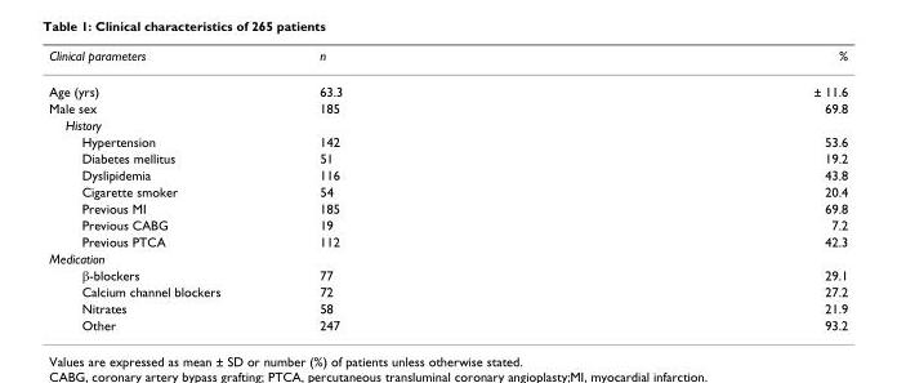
<table><thead><tr><td>Clinical parameters</td><td>n</td><td>%</td></tr></thead><tbody><tr><td>Age (yrs)</td><td>63.3</td><td>± 11.6</td></tr><tr><td>Male sex</td><td>185</td><td>69.8</td></tr><tr><td colspan="3">History</td></tr><tr><td>Hypertension</td><td>142</td><td>53.6</td></tr><tr><td>Diabetes mellitus</td><td>51</td><td>19.2</td></tr><tr><td>Dyslipidemia</td><td>116</td><td>43.8</td></tr><tr><td>Cigarette smoker</td><td>54</td><td>20.4</td></tr><tr><td>Previous MI</td><td>185</td><td>69.8</td></tr><tr><td>Previous CABG</td><td>19</td><td>7.2</td></tr><tr><td>Previous PTCA</td><td>112</td><td>42.3</td></tr><tr><td colspan="3">Medication</td></tr><tr><td>β-blockers</td><td>77</td><td>29.1</td></tr><tr><td>Calcium channel blockers</td><td>72</td><td>27.2</td></tr><tr><td>Nitrates</td><td>58</td><td>21.9</td></tr><tr><td>Other</td><td>247</td><td>93.2</td></tr></tbody></table>